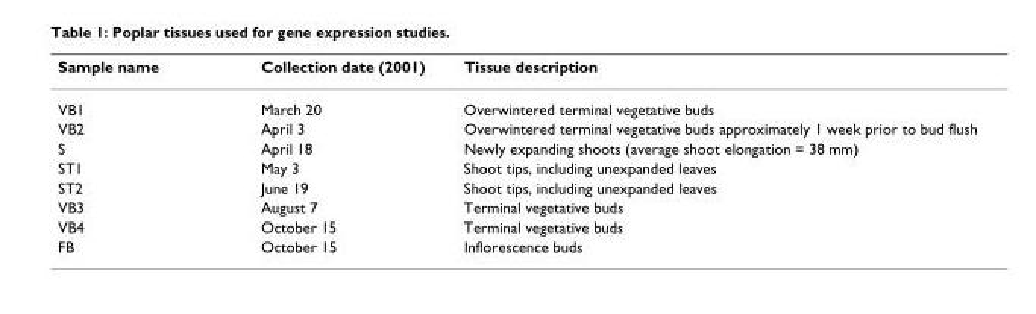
<table><thead><tr><td>Sample name</td><td>Collection date (2001)</td><td>Tissue description</td></tr></thead><tbody><tr><td>VB1</td><td>March 20</td><td>Overwintered terminal vegetative buds</td></tr><tr><td>VB2</td><td>April 3</td><td>Overwintered terminal vegetative buds approximately 1 week prior to bud flush</td></tr><tr><td>S</td><td>April 18</td><td>Newly expanding shoots (average shoot elongation = 38 mm)</td></tr><tr><td>ST1</td><td>May 3</td><td>Shoot tips, including unexpanded leaves</td></tr><tr><td>ST2</td><td>June 19</td><td>Shoot tips, including unexpanded leaves</td></tr><tr><td>VB3</td><td>August 7</td><td>Terminal vegetative buds</td></tr><tr><td>VB4</td><td>October 15</td><td>Terminal vegetative buds</td></tr><tr><td>FB</td><td>October 15</td><td>Inflorescence buds</td></tr></tbody></table>